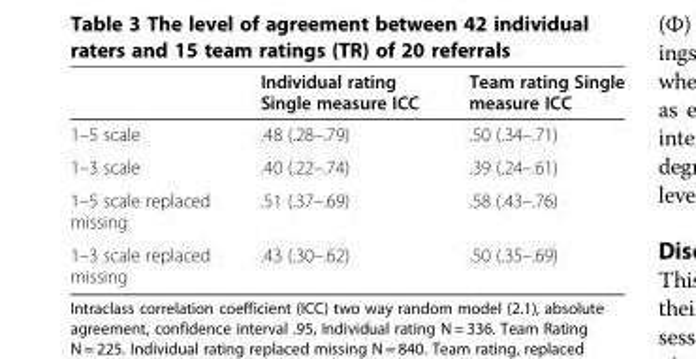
<table><thead><tr><td></td><td>Individual rating Single measure ICC</td><td>Team rating Single measure ICC</td></tr></thead><tbody><tr><td>1–5 scale</td><td>.48 (.28–.79)</td><td>.50 (.34–.71)</td></tr><tr><td>1–3 scale</td><td>.40 (.22–.74)</td><td>.39 (.24–.61)</td></tr><tr><td>1–5 scale replaced missing</td><td>.51 (.37–.69)</td><td>.58 (.43–.76)</td></tr><tr><td>1–3 scale replaced missing</td><td>.43 (.30–.62)</td><td>.50 (.35–.69)</td></tr></tbody></table>